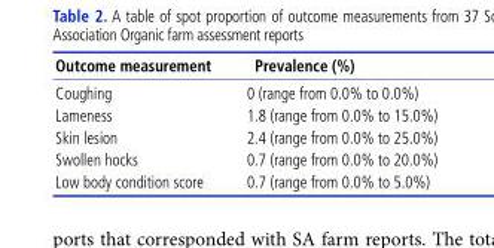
<table><thead><tr><td>Outcome measurement</td><td>Prevalence (%)</td></tr></thead><tbody><tr><td>Coughing</td><td>0 (range from 0.0% to 0.0%)</td></tr><tr><td>Lameness</td><td>1.8 (range from 0.0% to 15.0%)</td></tr><tr><td>Skin lesion</td><td>2.4 (range from 0.0% to 25.0%)</td></tr><tr><td>Swollen hocks</td><td>0.7 (range from 0.0% to 20.0%)</td></tr><tr><td>Low body condition score</td><td>0.7 (range from 0.0% to 5.0%)</td></tr></tbody></table>